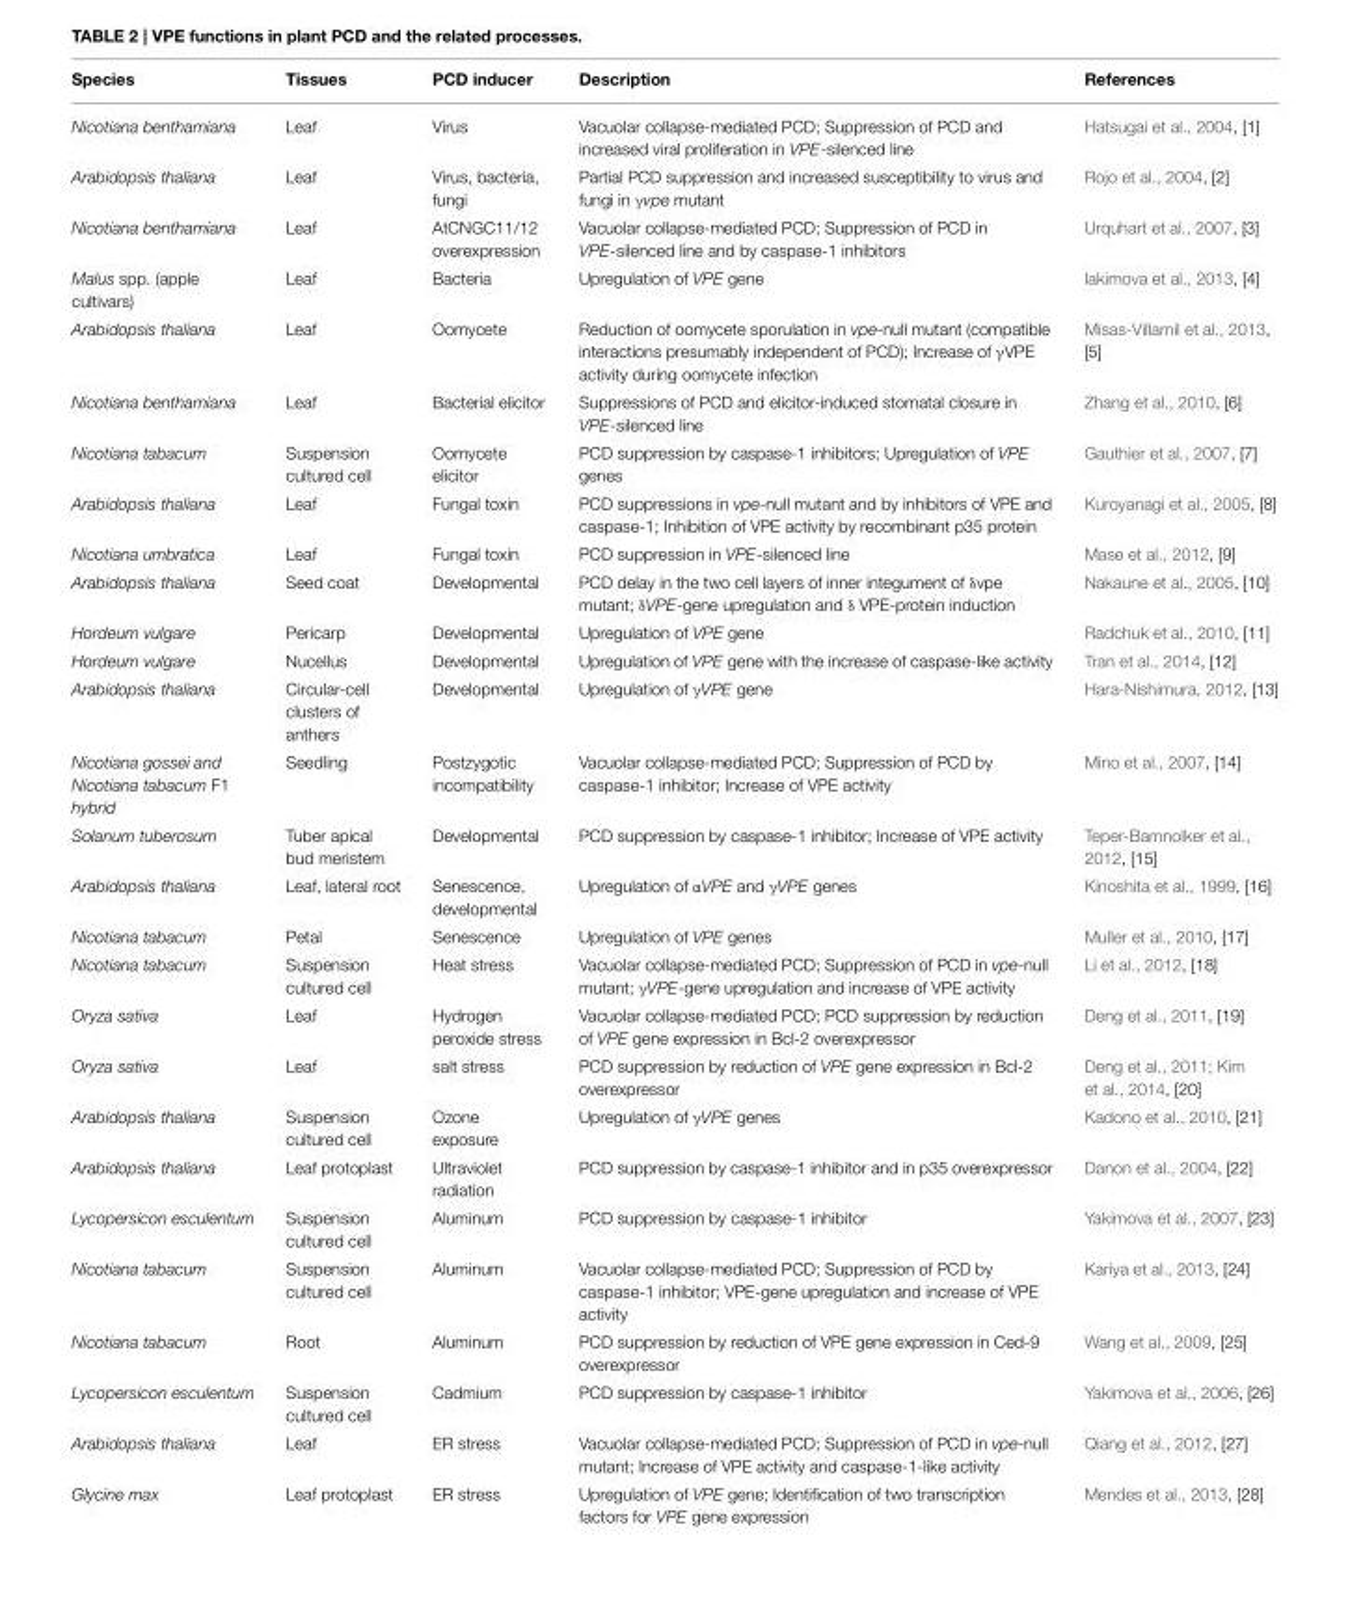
<table><thead><tr><td>Species</td><td>Tissues</td><td>PCD inducer</td><td>Description</td><td>References</td></tr></thead><tbody><tr><td>Nicotiana benthamiana</td><td>Leaf</td><td>Virus</td><td>Vacuolar collapse-mediated PCD; Suppression of PCD and increased viral proliferation in VPE-silenced line</td><td>Hatsugai et al., 2004, [1]</td></tr><tr><td>Arabidopsis thaliana</td><td>Leaf</td><td>Virus, bacteria, fungi</td><td>Partial PCD suppression and increased susceptibility to virus and fungi in γvpe mutant</td><td>Rojo et al., 2004, [2]</td></tr><tr><td>Nicotiana benthamiana</td><td>Leaf</td><td>AtCNGC11/12 overexpression</td><td>Vacuolar collapse-mediated PCD; Suppression of PCD in VPE-silenced line and by caspase-1 inhibitors</td><td>Urquhart et al., 2007, [3]</td></tr><tr><td>Malus spp. (apple cultivars)</td><td>Leaf</td><td>Bacteria</td><td>Upregulation of VPE gene</td><td>Iakimova et al., 2013, [4]</td></tr><tr><td>Arabidopsis thaliana</td><td>Leaf</td><td>Oomycete</td><td>Reduction of oomycete sporulation in vpe-null mutant (compatible interactions presumably independent of PCD); Increase of γVPE activity during oomycete infection</td><td>Misas-Villamil et al., 2013, [5]</td></tr><tr><td>Nicotiana benthamiana</td><td>Leaf</td><td>Bacterial elicitor</td><td>Suppressions of PCD and elicitor-induced stomatal closure in VPE-silenced line</td><td>Zhang et al., 2010, [6]</td></tr><tr><td>Nicotiana tabacum</td><td>Suspension cultured cell</td><td>Oomycete elicitor</td><td>PCD suppression by caspase-1 inhibitors; Upregulation of VPE genes</td><td>Gauthier et al., 2007, [7]</td></tr><tr><td>Arabidopsis thaliana</td><td>Leaf</td><td>Fungal toxin</td><td>PCD suppressions in vpe-null mutant and by inhibitors of VPE and caspase-1; Inhibition of VPE activity by recombinant p35 protein</td><td>Kuroyanagi et al., 2005, [8]</td></tr><tr><td>Nicotiana umbratica</td><td>Leaf</td><td>Fungal toxin</td><td>PCD suppression in VPE-silenced line</td><td>Mase et al., 2012, [9]</td></tr><tr><td>Arabidopsis thaliana</td><td>Seed coat</td><td>Developmental</td><td>PCD delay in the two cell layers of inner integument of δvpe mutant; δVPE-gene upregulation and δ VPE-protein induction</td><td>Nakaune et al., 2005, [10]</td></tr><tr><td>Hordeum vulgare</td><td>Pericarp</td><td>Developmental</td><td>Upregulation of VPE gene</td><td>Radchuk et al., 2010, [11]</td></tr><tr><td>Hordeum vulgare</td><td>Nucellus</td><td>Developmental</td><td>Upregulation of VPE gene with the increase of caspase-like activity</td><td>Tran et al., 2014, [12]</td></tr><tr><td>Arabidopsis thaliana</td><td>Circular-cell clusters of anthers</td><td>Developmental</td><td>Upregulation of γVPE gene</td><td>Hara-Nishimura, 2012, [13]</td></tr><tr><td>Nicotiana gossei and Nicotiana tabacum F1 hybrid</td><td>Seedling</td><td>Postzygotic incompatibility</td><td>Vacuolar collapse-mediated PCD; Suppression of PCD by caspase-1 inhibitor; Increase of VPE activity</td><td>Mino et al., 2007, [14]</td></tr><tr><td>Solanum tuberosum</td><td>Tuber apical bud meristem</td><td>Developmental</td><td>PCD suppression by caspase-1 inhibitor; Increase of VPE activity</td><td>Teper-Bamnolker et al., 2012, [15]</td></tr><tr><td>Arabidopsis thaliana</td><td>Leaf, lateral root</td><td>Senescence, developmental</td><td>Upregulation of αVPE and γVPE genes</td><td>Kinoshita et al., 1999, [16]</td></tr><tr><td>Nicotiana tabacum</td><td>Petal</td><td>Senescence</td><td>Upregulation of VPE genes</td><td>Muller et al., 2010, [17]</td></tr><tr><td>Nicotiana tabacum</td><td>Suspension cultured cell</td><td>Heat stress</td><td>Vacuolar collapse-mediated PCD; Suppression of PCD in vpe-null mutant; γVPE-gene upregulation and increase of VPE activity</td><td>Li et al., 2012, [18]</td></tr><tr><td>Oryza sativa</td><td>Leaf</td><td>Hydrogen peroxide stress</td><td>Vacuolar collapse-mediated PCD; PCD suppression by reduction of VPE gene expression in Bcl-2 overexpressor</td><td>Deng et al., 2011, [19]</td></tr><tr><td>Oryza sativa</td><td>Leaf</td><td>salt stress</td><td>PCD suppression by reduction of VPE gene expression in Bcl-2 overexpressor</td><td>Deng et al., 2011; Kim et al., 2014, [20]</td></tr><tr><td>Arabidopsis thaliana</td><td>Suspension cultured cell</td><td>Ozone exposure</td><td>Upregulation of γVPE genes</td><td>Kadono et al., 2010, [21]</td></tr><tr><td>Arabidopsis thaliana</td><td>Leaf protoplast</td><td>Ultraviolet radiation</td><td>PCD suppression by caspase-1 inhibitor and in p35 overexpressor</td><td>Danon et al., 2004, [22]</td></tr><tr><td>Lycopersicon esculentum</td><td>Suspension cultured cell</td><td>Aluminum</td><td>PCD suppression by caspase-1 inhibitor</td><td>Yakimova et al., 2007, [23]</td></tr><tr><td>Nicotiana tabacum</td><td>Suspension cultured cell</td><td>Aluminum</td><td>Vacuolar collapse-mediated PCD; Suppression of PCD by caspase-1 inhibitor; VPE-gene upregulation and increase of VPE activity</td><td>Kariya et al., 2013, [24]</td></tr><tr><td>Nicotiana tabacum</td><td>Root</td><td>Aluminum</td><td>PCD suppression by reduction of VPE gene expression in Ced-9 overexpressor</td><td>Wang et al., 2009, [25]</td></tr><tr><td>Lycopersicon esculentum</td><td>Suspension cultured cell</td><td>Cadmium</td><td>PCD suppression by caspase-1 inhibitor</td><td>Yakimova et al., 2006, [26]</td></tr><tr><td>Arabidopsis thaliana</td><td>Leaf</td><td>ER stress</td><td>Vacuolar collapse-mediated PCD; Suppression of PCD in vpe-null mutant; Increase of VPE activity and caspase-1-like activity</td><td>Qiang et al., 2012, [27]</td></tr><tr><td>Glycine max</td><td>Leaf protoplast</td><td>ER stress</td><td>Upregulation of VPE gene; Identification of two transcription factors for VPE gene expression</td><td>Mendes et al., 2013, [28]</td></tr></tbody></table>